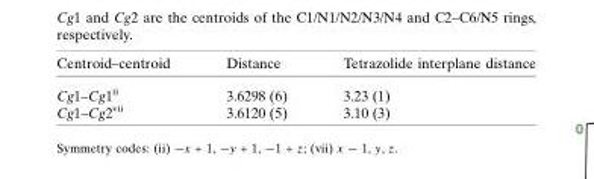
<table><thead><tr><td>Centroid–centroid</td><td>Distance</td><td>Tetrazolide interplane distance</td></tr></thead><tbody><tr><td>Cg1–Cg1<sup>ii</sup></td><td>3.6298 (6)</td><td>3.23 (1)</td></tr><tr><td>Cg1–Cg2<sup>vii</sup></td><td>3.6120 (5)</td><td>3.10 (3)</td></tr></tbody></table>